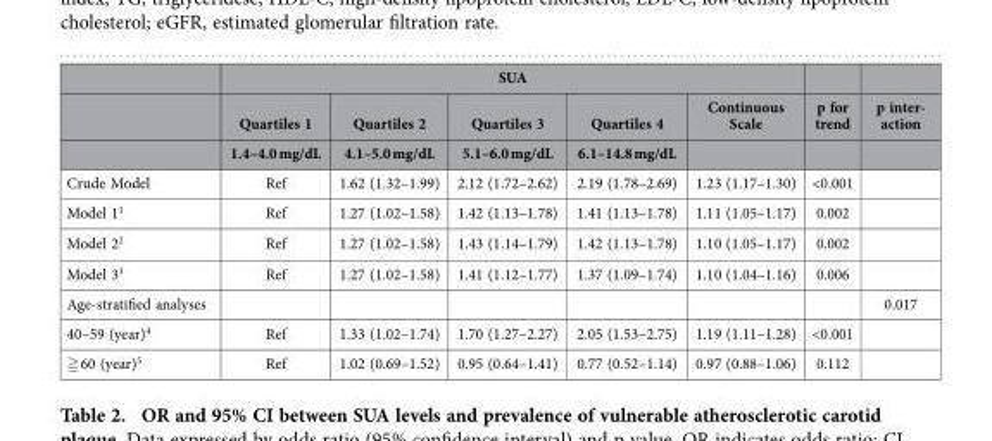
<table><thead><tr><td rowspan="3"></td><td colspan="5">SUA</td><td rowspan="3">p for trend</td><td rowspan="3">p inter- action</td></tr><tr><td rowspan="2">Quartiles 1 1.4–4.0 mg/dL</td><td rowspan="2">Quartiles 2 4.1–5.0 mg/dL</td><td rowspan="2">Quartiles 3 5.1–6.0 mg/dL</td><td rowspan="2">Quartiles 4 6.1–14.8 mg/dL</td><td rowspan="2">Continuous Scale</td></tr><tr></tr></thead><tbody><tr><td>Crude Model</td><td>Ref</td><td>1.62 (1.32–1.99)</td><td>2.12 (1.72–2.62)</td><td>2.19 (1.78–2.69)</td><td>1.23 (1.17–1.30)</td><td>&lt;0.001</td><td></td></tr><tr><td>Model 1<sup>1</sup></td><td>Ref</td><td>1.27 (1.02–1.58)</td><td>1.42 (1.13–1.78)</td><td>1.41 (1.13–1.78)</td><td>1.11 (1.05–1.17)</td><td>0.002</td><td></td></tr><tr><td>Model 2<sup>2</sup></td><td>Ref</td><td>1.27 (1.02–1.58)</td><td>1.43 (1.14–1.79)</td><td>1.42 (1.13–1.78)</td><td>1.10 (1.05–1.17)</td><td>0.002</td><td></td></tr><tr><td>Model 3<sup>3</sup></td><td>Ref</td><td>1.27 (1.02–1.58)</td><td>1.41 (1.12–1.77)</td><td>1.37 (1.09–1.74)</td><td>1.10 (1.04–1.16)</td><td>0.006</td><td></td></tr><tr><td>Age-stratified analyses</td><td></td><td></td><td></td><td></td><td></td><td></td><td>0.017</td></tr><tr><td>40–59 (year)<sup>4</sup></td><td>Ref</td><td>1.33 (1.02–1.74)</td><td>1.70 (1.27–2.27)</td><td>2.05 (1.53–2.75)</td><td>1.19 (1.11–1.28)</td><td>&lt;0.001</td><td></td></tr><tr><td>≧ 60 (year)<sup>5</sup></td><td>Ref</td><td>1.02 (0.69–1.52)</td><td>0.95 (0.64–1.41)</td><td>0.77 (0.52–1.14)</td><td>0.97 (0.88–1.06)</td><td>0.112</td><td></td></tr></tbody></table>